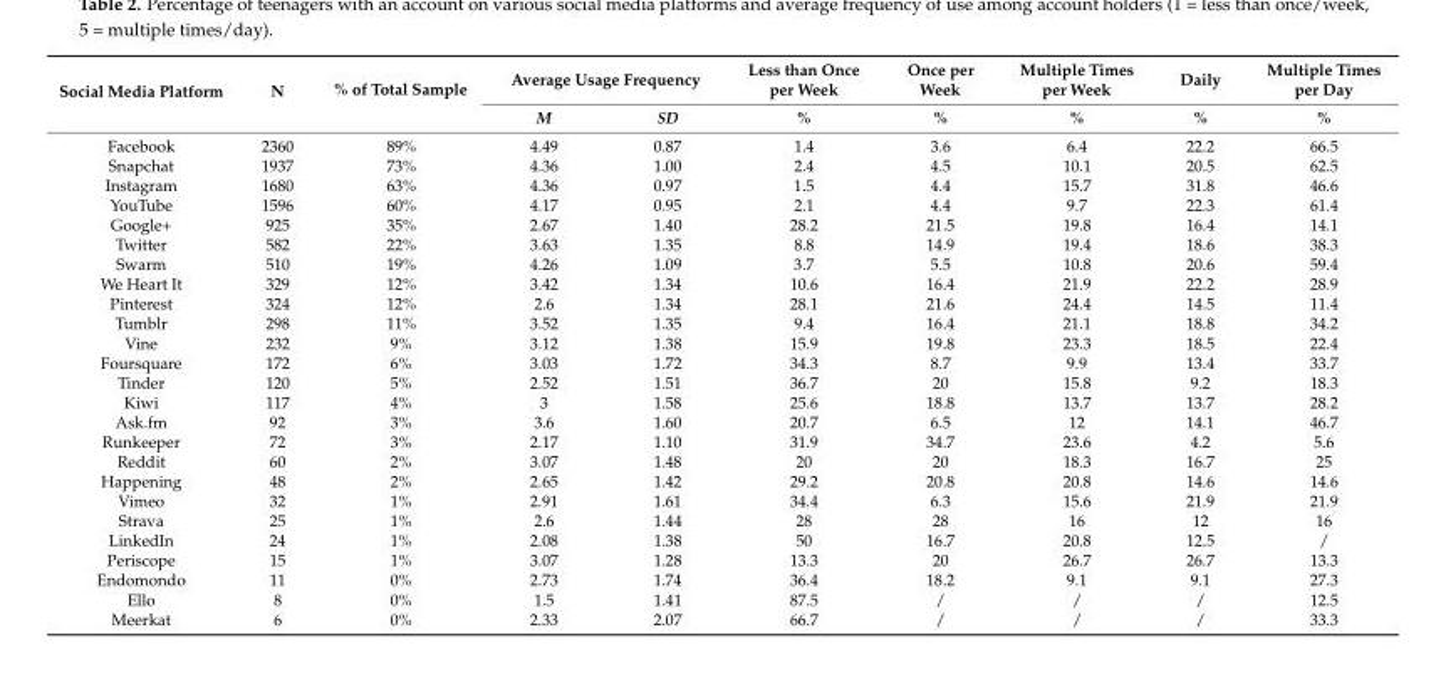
<table><thead><tr><td rowspan="2">Social Media Platform</td><td rowspan="2">N</td><td rowspan="2">% of Total Sample</td><td colspan="2">Average Usage Frequency</td><td rowspan="2">Less than Once per Week %</td><td rowspan="2">Once per Week %</td><td rowspan="2">Multiple Times per Week %</td><td rowspan="2">Daily %</td><td rowspan="2">Multiple Times per Day %</td></tr><tr><td>M</td><td>SD</td></tr></thead><tbody><tr><td>Facebook</td><td>2360</td><td>89%</td><td>4.49</td><td>0.87</td><td>1.4</td><td>3.6</td><td>6.4</td><td>22.2</td><td>66.5</td></tr><tr><td>Snapchat</td><td>1937</td><td>73%</td><td>4.36</td><td>1.00</td><td>2.4</td><td>4.5</td><td>10.1</td><td>20.5</td><td>62.5</td></tr><tr><td>Instagram</td><td>1680</td><td>63%</td><td>4.36</td><td>0.97</td><td>1.5</td><td>4.4</td><td>15.7</td><td>31.8</td><td>46.6</td></tr><tr><td>YouTube</td><td>1596</td><td>60%</td><td>4.17</td><td>0.95</td><td>2.1</td><td>4.4</td><td>9.7</td><td>22.3</td><td>61.4</td></tr><tr><td>Google+</td><td>925</td><td>35%</td><td>2.67</td><td>1.40</td><td>28.2</td><td>21.5</td><td>19.8</td><td>16.4</td><td>14.1</td></tr><tr><td>Twitter</td><td>582</td><td>22%</td><td>3.63</td><td>1.35</td><td>8.8</td><td>14.9</td><td>19.4</td><td>18.6</td><td>38.3</td></tr><tr><td>Swarm</td><td>510</td><td>19%</td><td>4.26</td><td>1.09</td><td>3.7</td><td>5.5</td><td>10.8</td><td>20.6</td><td>59.4</td></tr><tr><td>We Heart It</td><td>329</td><td>12%</td><td>3.42</td><td>1.34</td><td>10.6</td><td>16.4</td><td>21.9</td><td>22.2</td><td>28.9</td></tr><tr><td>Pinterest</td><td>324</td><td>12%</td><td>2.6</td><td>1.34</td><td>28.1</td><td>21.6</td><td>24.4</td><td>14.5</td><td>11.4</td></tr><tr><td>Tumblr</td><td>298</td><td>11%</td><td>3.52</td><td>1.35</td><td>9.4</td><td>16.4</td><td>21.1</td><td>18.8</td><td>34.2</td></tr><tr><td>Vine</td><td>232</td><td>9%</td><td>3.12</td><td>1.38</td><td>15.9</td><td>19.8</td><td>23.3</td><td>18.5</td><td>22.4</td></tr><tr><td>Foursquare</td><td>172</td><td>6%</td><td>3.03</td><td>1.72</td><td>34.3</td><td>8.7</td><td>9.9</td><td>13.4</td><td>33.7</td></tr><tr><td>Tinder</td><td>120</td><td>5%</td><td>2.52</td><td>1.51</td><td>36.7</td><td>20</td><td>15.8</td><td>9.2</td><td>18.3</td></tr><tr><td>Kiwi</td><td>117</td><td>4%</td><td>3</td><td>1.58</td><td>25.6</td><td>18.8</td><td>13.7</td><td>13.7</td><td>28.2</td></tr><tr><td>Ask.fm</td><td>92</td><td>3%</td><td>3.6</td><td>1.60</td><td>20.7</td><td>6.5</td><td>12</td><td>14.1</td><td>46.7</td></tr><tr><td>Runkeeper</td><td>72</td><td>3%</td><td>2.17</td><td>1.10</td><td>31.9</td><td>34.7</td><td>23.6</td><td>4.2</td><td>5.6</td></tr><tr><td>Reddit</td><td>60</td><td>2%</td><td>3.07</td><td>1.48</td><td>20</td><td>20</td><td>18.3</td><td>16.7</td><td>25</td></tr><tr><td>Happening</td><td>48</td><td>2%</td><td>2.65</td><td>1.42</td><td>29.2</td><td>20.8</td><td>20.8</td><td>14.6</td><td>14.6</td></tr><tr><td>Vimeo</td><td>32</td><td>1%</td><td>2.91</td><td>1.61</td><td>34.4</td><td>6.3</td><td>15.6</td><td>21.9</td><td>21.9</td></tr><tr><td>Strava</td><td>25</td><td>1%</td><td>2.6</td><td>1.44</td><td>28</td><td>28</td><td>16</td><td>12</td><td>16</td></tr><tr><td>LinkedIn</td><td>24</td><td>1%</td><td>2.08</td><td>1.38</td><td>50</td><td>16.7</td><td>20.8</td><td>12.5</td><td>/</td></tr><tr><td>Periscope</td><td>15</td><td>1%</td><td>3.07</td><td>1.28</td><td>13.3</td><td>20</td><td>26.7</td><td>26.7</td><td>13.3</td></tr><tr><td>Endomondo</td><td>11</td><td>0%</td><td>2.73</td><td>1.74</td><td>36.4</td><td>18.2</td><td>9.1</td><td>9.1</td><td>27.3</td></tr><tr><td>Ello</td><td>8</td><td>0%</td><td>1.5</td><td>1.41</td><td>87.5</td><td>/</td><td>/</td><td>/</td><td>12.5</td></tr><tr><td>Meerkat</td><td>6</td><td>0%</td><td>2.33</td><td>2.07</td><td>66.7</td><td>/</td><td>/</td><td>/</td><td>33.3</td></tr></tbody></table>